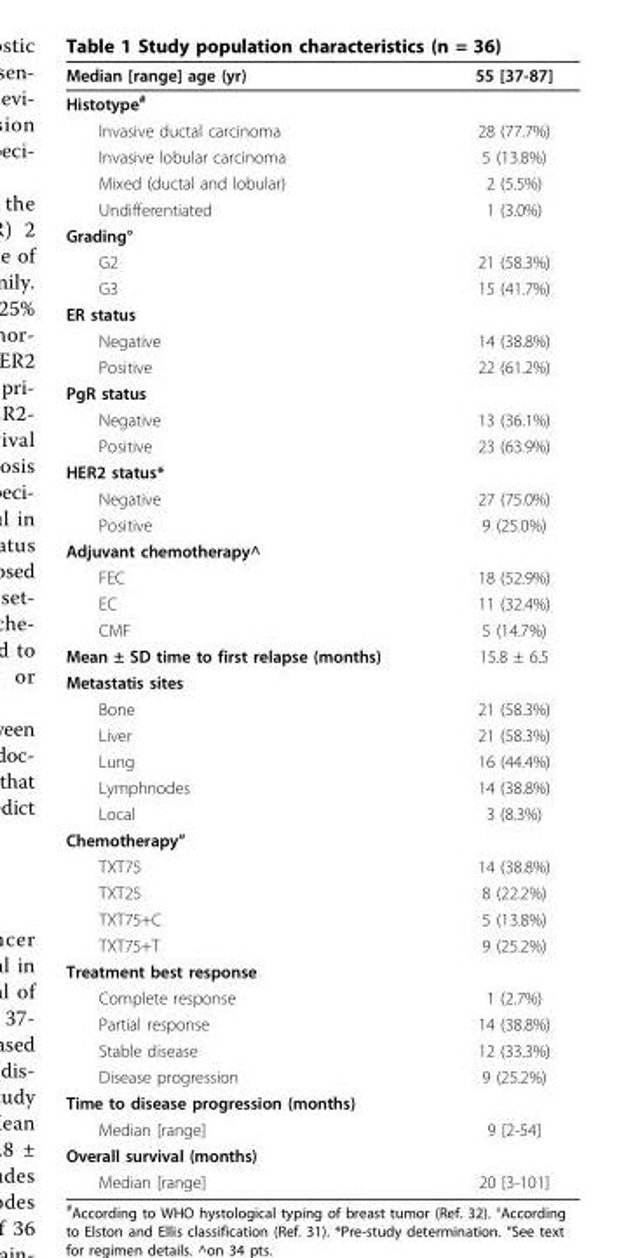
<table><thead><tr><td>Median [range] age (yr)</td><td>55 [37-87]</td></tr></thead><tbody><tr><td colspan="2">Histotype<sup>#</sup></td></tr><tr><td>Invasive ductal carcinoma</td><td>28 (77.7%)</td></tr><tr><td>Invasive lobular carcinoma</td><td>5 (13.8%)</td></tr><tr><td>Mixed (ductal and lobular)</td><td>2 (5.5%)</td></tr><tr><td>Undifferentiated</td><td>1 (3.0%)</td></tr><tr><td colspan="2">Grading°</td></tr><tr><td>G2</td><td>21 (58.3%)</td></tr><tr><td>G3</td><td>15 (41.7%)</td></tr><tr><td colspan="2">ER status</td></tr><tr><td>Negative</td><td>14 (38.8%)</td></tr><tr><td>Positive</td><td>22 (61.2%)</td></tr><tr><td colspan="2">PgR status</td></tr><tr><td>Negative</td><td>13 (36.1%)</td></tr><tr><td>Positive</td><td>23 (63.9%)</td></tr><tr><td colspan="2">HER2 status*</td></tr><tr><td>Negative</td><td>27 (75.0%)</td></tr><tr><td>Positive</td><td>9 (25.0%)</td></tr><tr><td colspan="2">Adjuvant chemotherapy^</td></tr><tr><td>FEC</td><td>18 (52.9%)</td></tr><tr><td>EC</td><td>11 (32.4%)</td></tr><tr><td>CMF</td><td>5 (14.7%)</td></tr><tr><td>Mean ± SD time to first relapse (months)</td><td>15.8 ± 6.5</td></tr><tr><td colspan="2">Metastatis sites</td></tr><tr><td>Bone</td><td>21 (58.3%)</td></tr><tr><td>Liver</td><td>21 (58.3%)</td></tr><tr><td>Lung</td><td>16 (44.4%)</td></tr><tr><td>Lymphnodes</td><td>14 (38.8%)</td></tr><tr><td>Local</td><td>3 (8.3%)</td></tr><tr><td colspan="2">Chemotherapy”</td></tr><tr><td>TXT75</td><td>14 (38.8%)</td></tr><tr><td>TXT25</td><td>8 (22.2%)</td></tr><tr><td>TXT75+C</td><td>5 (13.8%)</td></tr><tr><td>TXT75+T</td><td>9 (25.2%)</td></tr><tr><td colspan="2">Treatment best response</td></tr><tr><td>Complete response</td><td>1 (2.7%)</td></tr><tr><td>Partial response</td><td>14 (38.8%)</td></tr><tr><td>Stable disease</td><td>12 (33.3%)</td></tr><tr><td>Disease progression</td><td>9 (25.2%)</td></tr><tr><td colspan="2">Time to disease progression (months)</td></tr><tr><td>Median [range]</td><td>9 [2-54]</td></tr><tr><td colspan="2">Overall survival (months)</td></tr><tr><td>Median [range]</td><td>20 [3-101]</td></tr></tbody></table>